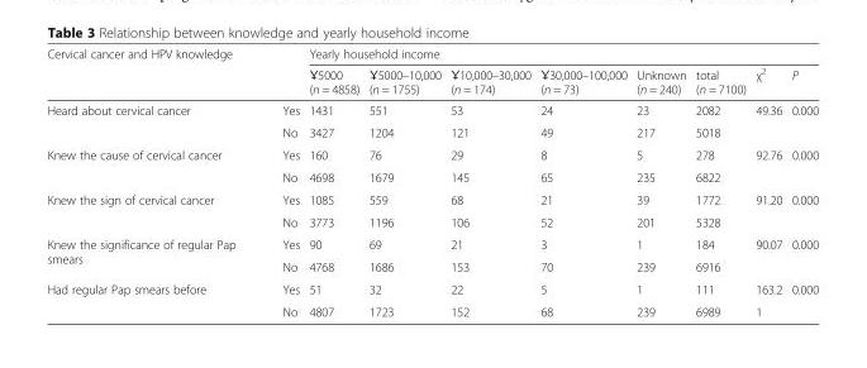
<table><thead><tr><td colspan="2">Cervical cancer and HPV knowledge</td><td colspan="8">Yearly household income</td></tr><tr><td></td><td></td><td>Ұ5000 (n = 4858)</td><td>Ұ5000–10,000 (n = 1755)</td><td>Ұ10,000–30,000 (n = 174)</td><td>Ұ30,000–100,000 (n = 73)</td><td>Unknown (n = 240)</td><td>total (n = 7100)</td><td>χ<sup>2</sup></td><td>P</td></tr></thead><tbody><tr><td rowspan="2">Heard about cervical cancer</td><td>Yes</td><td>1431</td><td>551</td><td>53</td><td>24</td><td>23</td><td>2082</td><td rowspan="2">49.36</td><td rowspan="2">0.000</td></tr><tr><td>No</td><td>3427</td><td>1204</td><td>121</td><td>49</td><td>217</td><td>5018</td></tr><tr><td rowspan="2">Knew the cause of cervical cancer</td><td>Yes</td><td>160</td><td>76</td><td>29</td><td>8</td><td>5</td><td>278</td><td rowspan="2">92.76</td><td rowspan="2">0.000</td></tr><tr><td>No</td><td>4698</td><td>1679</td><td>145</td><td>65</td><td>235</td><td>6822</td></tr><tr><td rowspan="2">Knew the sign of cervical cancer</td><td>Yes</td><td>1085</td><td>559</td><td>68</td><td>21</td><td>39</td><td>1772</td><td rowspan="2">91.20</td><td rowspan="2">0.000</td></tr><tr><td>No</td><td>3773</td><td>1196</td><td>106</td><td>52</td><td>201</td><td>5328</td></tr><tr><td rowspan="2">Knew the significance of regular Pap smears</td><td>Yes</td><td>90</td><td>69</td><td>21</td><td>3</td><td>1</td><td>184</td><td rowspan="2">90.07</td><td rowspan="2">0.000</td></tr><tr><td>No</td><td>4768</td><td>1686</td><td>153</td><td>70</td><td>239</td><td>6916</td></tr><tr><td rowspan="2">Had regular Pap smears before</td><td>Yes</td><td>51</td><td>32</td><td>22</td><td>5</td><td>1</td><td>111</td><td>163.2</td><td>0.000</td></tr><tr><td>No</td><td>4807</td><td>1723</td><td>152</td><td>68</td><td>239</td><td>6989</td><td>1</td><td></td></tr></tbody></table>